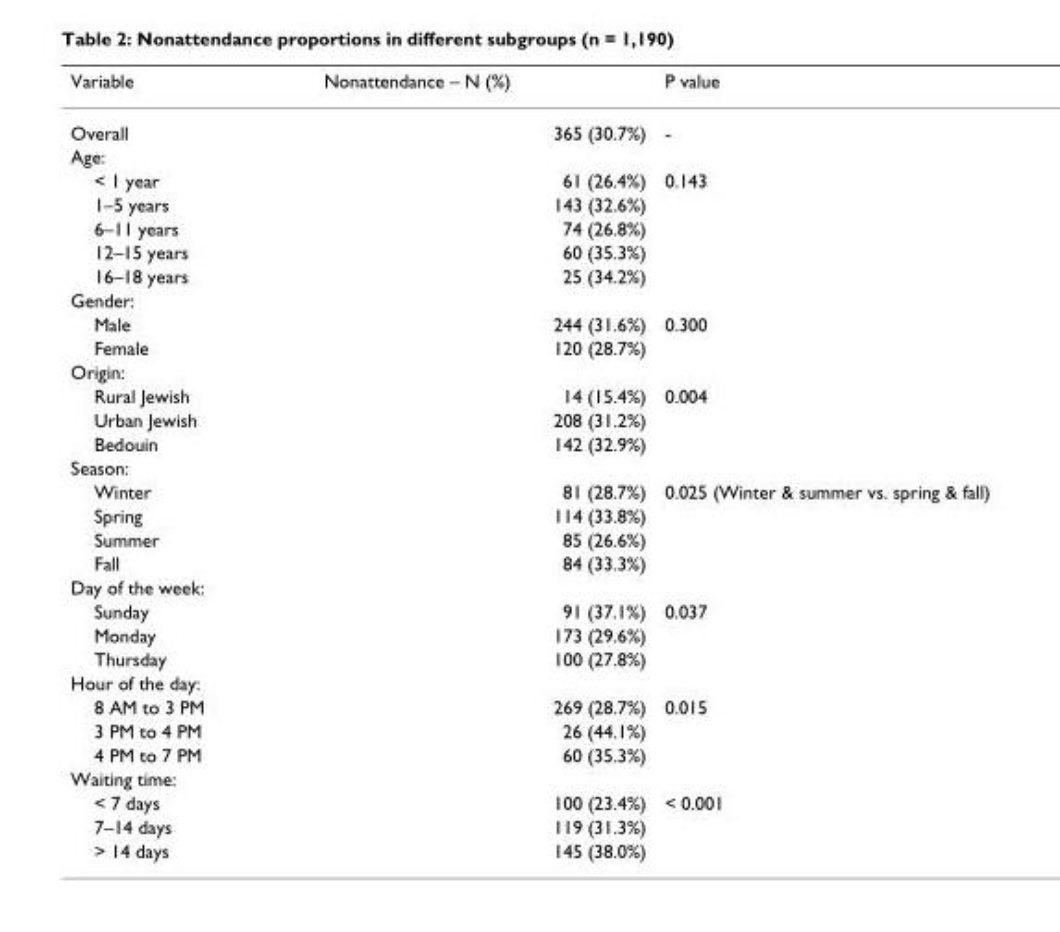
<table><thead><tr><td>Variable</td><td>Nonattendance – N (%)</td><td>P value</td></tr></thead><tbody><tr><td>Overall</td><td>365 (30.7%)</td><td>-</td></tr><tr><td colspan="3">Age:</td></tr><tr><td>&lt; 1 year</td><td>61 (26.4%)</td><td>0.143</td></tr><tr><td>1–5 years</td><td>143 (32.6%)</td><td></td></tr><tr><td>6–11 years</td><td>74 (26.8%)</td><td></td></tr><tr><td>12–15 years</td><td>60 (35.3%)</td><td></td></tr><tr><td>16–18 years</td><td>25 (34.2%)</td><td></td></tr><tr><td colspan="3">Gender:</td></tr><tr><td>Male</td><td>244 (31.6%)</td><td>0.300</td></tr><tr><td>Female</td><td>120 (28.7%)</td><td></td></tr><tr><td colspan="3">Origin:</td></tr><tr><td>Rural Jewish</td><td>14 (15.4%)</td><td>0.004</td></tr><tr><td>Urban Jewish</td><td>208 (31.2%)</td><td></td></tr><tr><td>Bedouin</td><td>142 (32.9%)</td><td></td></tr><tr><td colspan="3">Season:</td></tr><tr><td>Winter</td><td>81 (28.7%)</td><td>0.025 (Winter &amp; summer vs. spring &amp; fall)</td></tr><tr><td>Spring</td><td>114 (33.8%)</td><td></td></tr><tr><td>Summer</td><td>85 (26.6%)</td><td></td></tr><tr><td>Fall</td><td>84 (33.3%)</td><td></td></tr><tr><td colspan="3">Day of the week:</td></tr><tr><td>Sunday</td><td>91 (37.1%)</td><td>0.037</td></tr><tr><td>Monday</td><td>173 (29.6%)</td><td></td></tr><tr><td>Thursday</td><td>100 (27.8%)</td><td></td></tr><tr><td colspan="3">Hour of the day:</td></tr><tr><td>8 AM to 3 PM</td><td>269 (28.7%)</td><td>0.015</td></tr><tr><td>3 PM to 4 PM</td><td>26 (44.1%)</td><td></td></tr><tr><td>4 PM to 7 PM</td><td>60 (35.3%)</td><td></td></tr><tr><td colspan="3">Waiting time:</td></tr><tr><td>&lt; 7 days</td><td>100 (23.4%)</td><td>&lt; 0.001</td></tr><tr><td>7–14 days</td><td>119 (31.3%)</td><td></td></tr><tr><td>&gt; 14 days</td><td>145 (38.0%)</td><td></td></tr></tbody></table>